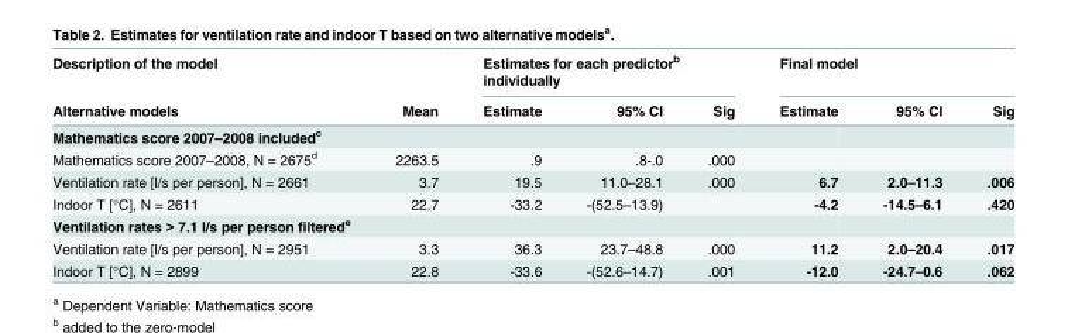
<table><thead><tr><td rowspan="2">Description of the model Alternative models</td><td rowspan="2">Mean</td><td colspan="3">Estimates for each predictor<sup>b</sup> individually</td><td colspan="3">Final model</td></tr><tr><td>Estimate</td><td>95% CI</td><td>Sig</td><td>Estimate</td><td>95% CI</td><td>Sig</td></tr></thead><tbody><tr><td colspan="8">Mathematics score 2007–2008 included<sup>c</sup></td></tr><tr><td>Mathematics score 2007–2008, N = 2675<sup>d</sup></td><td>2263.5</td><td>.9</td><td>.8-.0</td><td>.000</td><td></td><td></td><td></td></tr><tr><td>Ventilation rate [l/s per person], N = 2661</td><td>3.7</td><td>19.5</td><td>11.0–28.1</td><td>.000</td><td>6.7</td><td>2.0–11.3</td><td>.006</td></tr><tr><td>Indoor T [°C], N = 2611</td><td>22.7</td><td>-33.2</td><td>-(52.5–13.9)</td><td></td><td>-4.2</td><td>-14.5–6.1</td><td>.420</td></tr><tr><td colspan="8">Ventilation rates &gt; 7.1 l/s per person filtered<sup>e</sup></td></tr><tr><td>Ventilation rate [l/s per person], N = 2951</td><td>3.3</td><td>36.3</td><td>23.7–48.8</td><td>.000</td><td>11.2</td><td>2.0–20.4</td><td>.017</td></tr><tr><td>Indoor T [°C], N = 2899</td><td>22.8</td><td>-33.6</td><td>-(52.6–14.7)</td><td>.001</td><td>-12.0</td><td>-24.7–0.6</td><td>.062</td></tr></tbody></table>